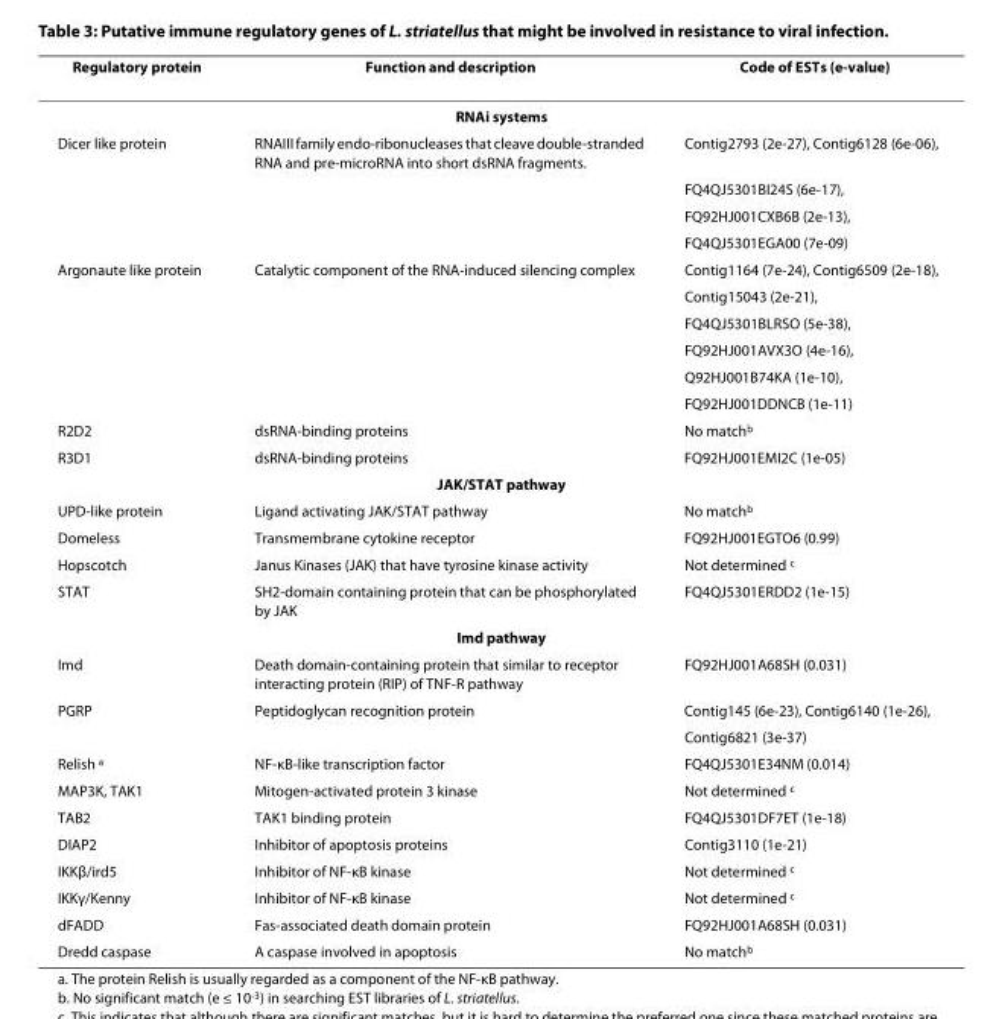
<table><thead><tr><td>Regulatory protein</td><td>Function and description</td><td>Code of ESTs (e-value)</td></tr></thead><tbody><tr><td colspan="3">RNAi systems</td></tr><tr><td rowspan="4">Dicer like protein</td><td>RNAIII family endo-ribonucleases that cleave double-stranded RNA and pre-microRNA into short dsRNA fragments.</td><td>Contig2793 (2e-27), Contig6128 (6e-06),</td></tr><tr><td></td><td>FQ4QJ5301BI24S (6e-17),</td></tr><tr><td></td><td>FQ92HJ001CXB6B (2e-13),</td></tr><tr><td></td><td>FQ4QJ5301EGA00 (7e-09)</td></tr><tr><td rowspan="6">Argonaute like protein</td><td>Catalytic component of the RNA-induced silencing complex</td><td>Contig1164 (7e-24), Contig6509 (2e-18),</td></tr><tr><td></td><td>Contig15043 (2e-21),</td></tr><tr><td></td><td>FQ4QJ5301BLRSO (5e-38),</td></tr><tr><td></td><td>FQ92HJ001AVX3O (4e-16),</td></tr><tr><td></td><td>Q92HJ001B74KA (1e-10),</td></tr><tr><td></td><td>FQ92HJ001DDNCB (1e-11)</td></tr><tr><td>R2D2</td><td>dsRNA-binding proteins</td><td>No match<sup>b</sup></td></tr><tr><td>R3D1</td><td>dsRNA-binding proteins</td><td>FQ92HJ001EMI2C (1e-05)</td></tr><tr><td colspan="3">JAK/STAT pathway</td></tr><tr><td>UPD-like protein</td><td>Ligand activating JAK/STAT pathway</td><td>No match<sup>b</sup></td></tr><tr><td>Domeless</td><td>Transmembrane cytokine receptor</td><td>FQ92HJ001EGTO6 (0.99)</td></tr><tr><td>Hopscotch</td><td>Janus Kinases (JAK) that have tyrosine kinase activity</td><td>Not determined <sup>c</sup></td></tr><tr><td>STAT</td><td>SH2-domain containing protein that can be phosphorylated by JAK</td><td>FQ4QJ5301ERDD2 (1e-15)</td></tr><tr><td colspan="3">Imd pathway</td></tr><tr><td>Imd</td><td>Death domain-containing protein that similar to receptor interacting protein (RIP) of TNF-R pathway</td><td>FQ92HJ001A68SH (0.031)</td></tr><tr><td rowspan="2">PGRP</td><td>Peptidoglycan recognition protein</td><td>Contig145 (6e-23), Contig6140 (1e-26),</td></tr><tr><td></td><td>Contig6821 (3e-37)</td></tr><tr><td>Relish <sup>a</sup></td><td>NF-κB-like transcription factor</td><td>FQ4QJ5301E34NM (0.014)</td></tr><tr><td>MAP3K, TAK1</td><td>Mitogen-activated protein 3 kinase</td><td>Not determined <sup>c</sup></td></tr><tr><td>TAB2</td><td>TAK1 binding protein</td><td>FQ4QJ5301DF7ET (1e-18)</td></tr><tr><td>DIAP2</td><td>Inhibitor of apoptosis proteins</td><td>Contig3110 (1e-21)</td></tr><tr><td>IKKβ/ird5</td><td>Inhibitor of NF-κB kinase</td><td>Not determined <sup>c</sup></td></tr><tr><td>IKKγ/Kenny</td><td>Inhibitor of NF-κB kinase</td><td>Not determined <sup>c</sup></td></tr><tr><td>dFADD</td><td>Fas-associated death domain protein</td><td>FQ92HJ001A68SH (0.031)</td></tr><tr><td>Dredd caspase</td><td>A caspase involved in apoptosis</td><td>No match<sup>b</sup></td></tr></tbody></table>